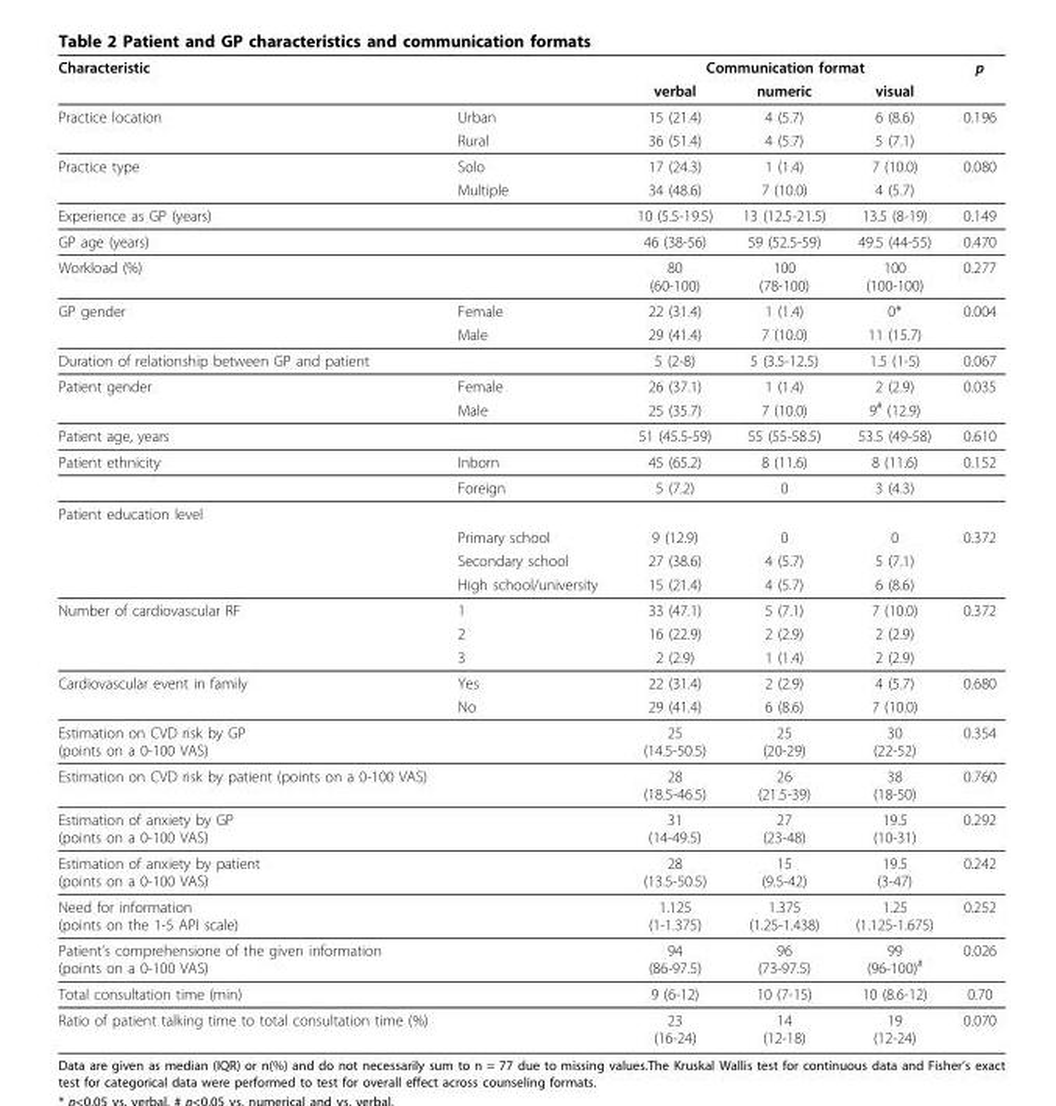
<table><thead><tr><td rowspan="2">Characteristic</td><td rowspan="2"></td><td colspan="3">Communication format</td><td rowspan="2">p</td></tr><tr><td>verbal</td><td>numeric</td><td>visual</td></tr></thead><tbody><tr><td rowspan="2">Practice location</td><td>Urban</td><td>15 (21.4)</td><td>4 (5.7)</td><td>6 (8.6)</td><td>0.196</td></tr><tr><td>Rural</td><td>36 (51.4)</td><td>4 (5.7)</td><td>5 (7.1)</td><td></td></tr><tr><td rowspan="2">Practice type</td><td>Solo</td><td>17 (24.3)</td><td>1 (1.4)</td><td>7 (10.0)</td><td>0.080</td></tr><tr><td>Multiple</td><td>34 (48.6)</td><td>7 (10.0)</td><td>4 (5.7)</td><td></td></tr><tr><td>Experience as GP (years)</td><td></td><td>10 (5.5-19.5)</td><td>13 (12.5-21.5)</td><td>13.5 (8-19)</td><td>0.149</td></tr><tr><td>GP age (years)</td><td></td><td>46 (38-56)</td><td>59 (52.5-59)</td><td>49.5 (44-55)</td><td>0.470</td></tr><tr><td>Workload (%)</td><td></td><td>80 (60-100)</td><td>100 (78-100)</td><td>100 (100-100)</td><td>0.277</td></tr><tr><td rowspan="2">GP gender</td><td>Female</td><td>22 (31.4)</td><td>1 (1.4)</td><td>0*</td><td>0.004</td></tr><tr><td>Male</td><td>29 (41.4)</td><td>7 (10.0)</td><td>11 (15.7)</td><td></td></tr><tr><td>Duration of relationship between GP and patient</td><td></td><td>5 (2-8)</td><td>5 (3.5-12.5)</td><td>1.5 (1-5)</td><td>0.067</td></tr><tr><td rowspan="2">Patient gender</td><td>Female</td><td>26 (37.1)</td><td>1 (1.4)</td><td>2 (2.9)</td><td>0.035</td></tr><tr><td>Male</td><td>25 (35.7)</td><td>7 (10.0)</td><td>9<sup>#</sup> (12.9)</td><td></td></tr><tr><td>Patient age, years</td><td></td><td>51 (45.5-59)</td><td>55 (55-58.5)</td><td>53.5 (49-58)</td><td>0.610</td></tr><tr><td rowspan="2">Patient ethnicity</td><td>Inborn</td><td>45 (65.2)</td><td>8 (11.6)</td><td>8 (11.6)</td><td>0.152</td></tr><tr><td>Foreign</td><td>5 (7.2)</td><td>0</td><td>3 (4.3)</td><td></td></tr><tr><td colspan="6">Patient education level</td></tr><tr><td></td><td>Primary school</td><td>9 (12.9)</td><td>0</td><td>0</td><td>0.372</td></tr><tr><td></td><td>Secondary school</td><td>27 (38.6)</td><td>4 (5.7)</td><td>5 (7.1)</td><td></td></tr><tr><td></td><td>High school/university</td><td>15 (21.4)</td><td>4 (5.7)</td><td>6 (8.6)</td><td></td></tr><tr><td rowspan="3">Number of cardiovascular RF</td><td>1</td><td>33 (47.1)</td><td>5 (7.1)</td><td>7 (10.0)</td><td>0.372</td></tr><tr><td>2</td><td>16 (22.9)</td><td>2 (2.9)</td><td>2 (2.9)</td><td></td></tr><tr><td>3</td><td>2 (2.9)</td><td>1 (1.4)</td><td>2 (2.9)</td><td></td></tr><tr><td rowspan="2">Cardiovascular event in family</td><td>Yes</td><td>22 (31.4)</td><td>2 (2.9)</td><td>4 (5.7)</td><td>0.680</td></tr><tr><td>No</td><td>29 (41.4)</td><td>6 (8.6)</td><td>7 (10.0)</td><td></td></tr><tr><td>Estimation on CVD risk by GP (points on a 0-100 VAS)</td><td></td><td>25 (14.5-50.5)</td><td>25 (20-29)</td><td>30 (22-52)</td><td>0.354</td></tr><tr><td>Estimation on CVD risk by patient (points on a 0-100 VAS)</td><td></td><td>28 (18.5-46.5)</td><td>26 (21.5-39)</td><td>38 (18-50)</td><td>0.760</td></tr><tr><td>Estimation of anxiety by GP (points on a 0-100 VAS)</td><td></td><td>31 (14-49.5)</td><td>27 (23-48)</td><td>19.5 (10-31)</td><td>0.292</td></tr><tr><td>Estimation of anxiety by patient (points on a 0-100 VAS)</td><td></td><td>28 (13.5-50.5)</td><td>15 (9.5-42)</td><td>19.5 (3-47)</td><td>0.242</td></tr><tr><td>Need for information (points on the 1-5 API scale)</td><td></td><td>1.125 (1-1.375)</td><td>1.375 (1.25-1.438)</td><td>1.25 (1.125-1.675)</td><td>0.252</td></tr><tr><td>Patient’s comprehensione of the given information (points on a 0-100 VAS)</td><td></td><td>94 (86-97.5)</td><td>96 (73-97.5)</td><td>99 (96-100)<sup>#</sup></td><td>0.026</td></tr><tr><td>Total consultation time (min)</td><td></td><td>9 (6-12)</td><td>10 (7-15)</td><td>10 (8.6-12)</td><td>0.70</td></tr><tr><td>Ratio of patient talking time to total consultation time (%)</td><td></td><td>23 (16-24)</td><td>14 (12-18)</td><td>19 (12-24)</td><td>0.070</td></tr></tbody></table>